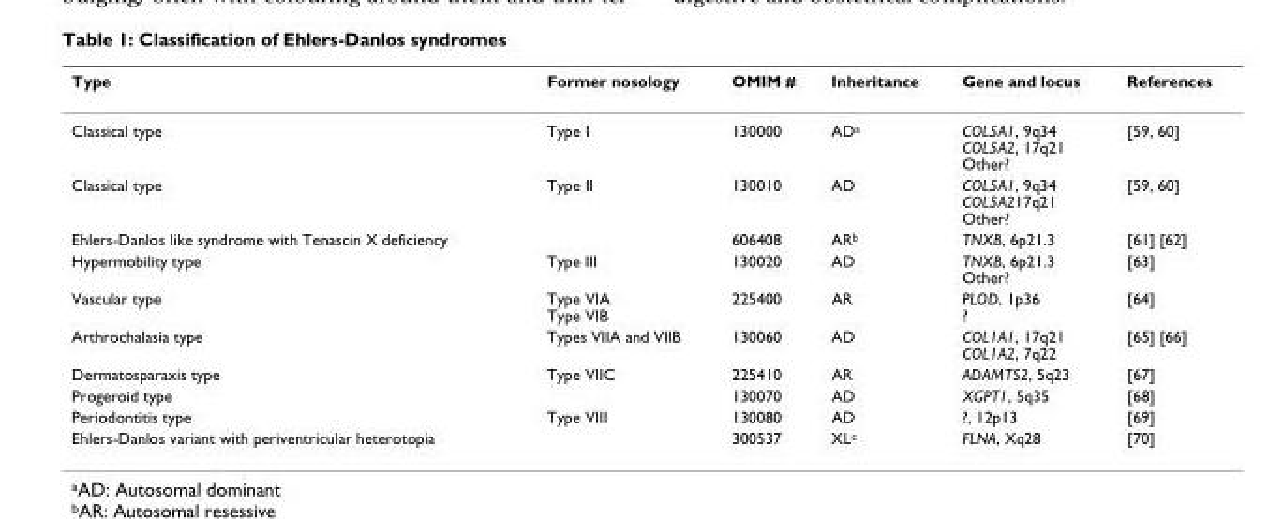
<table><thead><tr><td>Type</td><td>Former nosology</td><td>OMIM #</td><td>Inheritance</td><td>Gene and locus</td><td>References</td></tr></thead><tbody><tr><td>Classical type</td><td>Type I</td><td>130000</td><td>AD<sup>a</sup></td><td>COL5A1, 9q34 COL5A2, 17q21 Other?</td><td>[59, 60]</td></tr><tr><td>Classical type</td><td>Type II</td><td>130010</td><td>AD</td><td>COL5A1, 9q34 COL5A217q21 Other?</td><td>[59, 60]</td></tr><tr><td>Ehlers-Danlos like syndrome with Tenascin X deficiency</td><td></td><td>606408</td><td>AR<sup>b</sup></td><td>TNXB, 6p21.3</td><td>[61] [62]</td></tr><tr><td>Hypermobility type</td><td>Type III</td><td>130020</td><td>AD</td><td>TNXB, 6p21.3 Other?</td><td>[63]</td></tr><tr><td>Vascular type</td><td>Type VIA Type VIB</td><td>225400</td><td>AR</td><td>PLOD, 1p36 ?</td><td>[64]</td></tr><tr><td>Arthrochalasia type</td><td>Types VIIA and VIIB</td><td>130060</td><td>AD</td><td>COL1A1, 17q21 COL1A2, 7q22</td><td>[65] [66]</td></tr><tr><td>Dermatosparaxis type</td><td>Type VIIC</td><td>225410</td><td>AR</td><td>ADAMTS2, 5q23</td><td>[67]</td></tr><tr><td>Progeroid type</td><td></td><td>130070</td><td>AD</td><td>XGPT1, 5q35</td><td>[68]</td></tr><tr><td>Periodontitis type</td><td>Type VIII</td><td>130080</td><td>AD</td><td>?, 12p13</td><td>[69]</td></tr><tr><td>Ehlers-Danlos variant with periventricular heterotopia</td><td></td><td>300537</td><td>XL<sup>c</sup></td><td>FLNA, Xq28</td><td>[70]</td></tr></tbody></table>